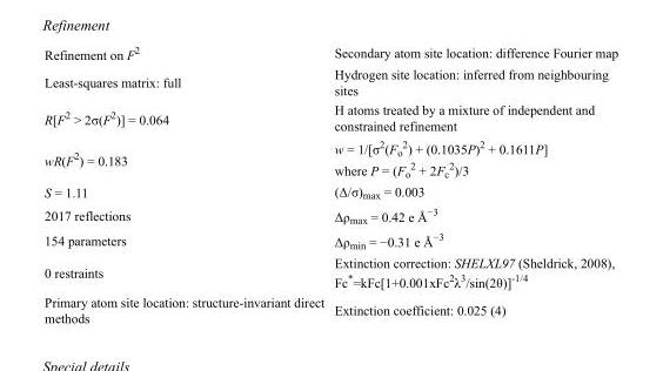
<table><tbody><tr><td>Refinement on F<sup>2</sup></td><td>Secondary atom site location: difference Fourier map</td></tr><tr><td>Least-squares matrix: full</td><td>Hydrogen site location: inferred from neighbouring sites</td></tr><tr><td>R[F<sup>2</sup> &gt; 2σ(F<sup>2</sup>)] = 0.064</td><td>H atoms treated by a mixture of independent and constrained refinement</td></tr><tr><td>wR(F<sup>2</sup>) = 0.183</td><td>w = 1/[σ<sup>2</sup>(F<sub>o</sub> <sup>2</sup>) + (0.1035P)<sup>2</sup> + 0.1611P] where P = (F<sub>o</sub> <sup>2</sup> + 2F<sub>c</sub> <sup>2</sup>)/3</td></tr><tr><td>S = 1.11</td><td>(Δ/σ)<sub>max</sub> = 0.003</td></tr><tr><td>2017 reflections</td><td>Δρ<sub>max</sub> = 0.42 e Å<sup>−3</sup></td></tr><tr><td>154 parameters</td><td>Δρ<sub>min</sub> = −0.31 e Å<sup>−3</sup></td></tr><tr><td>0 restraints</td><td>Extinction correction: SHELXL97 (Sheldrick, 2008), Fc*=kFc[1+0.001xFc<sup>2</sup>λ<sup>3</sup>/sin(2θ)]<sup>-1/4</sup></td></tr><tr><td>Primary atom site location: structure-invariant direct methods</td><td>Extinction coefficient: 0.025 (4)</td></tr></tbody></table>